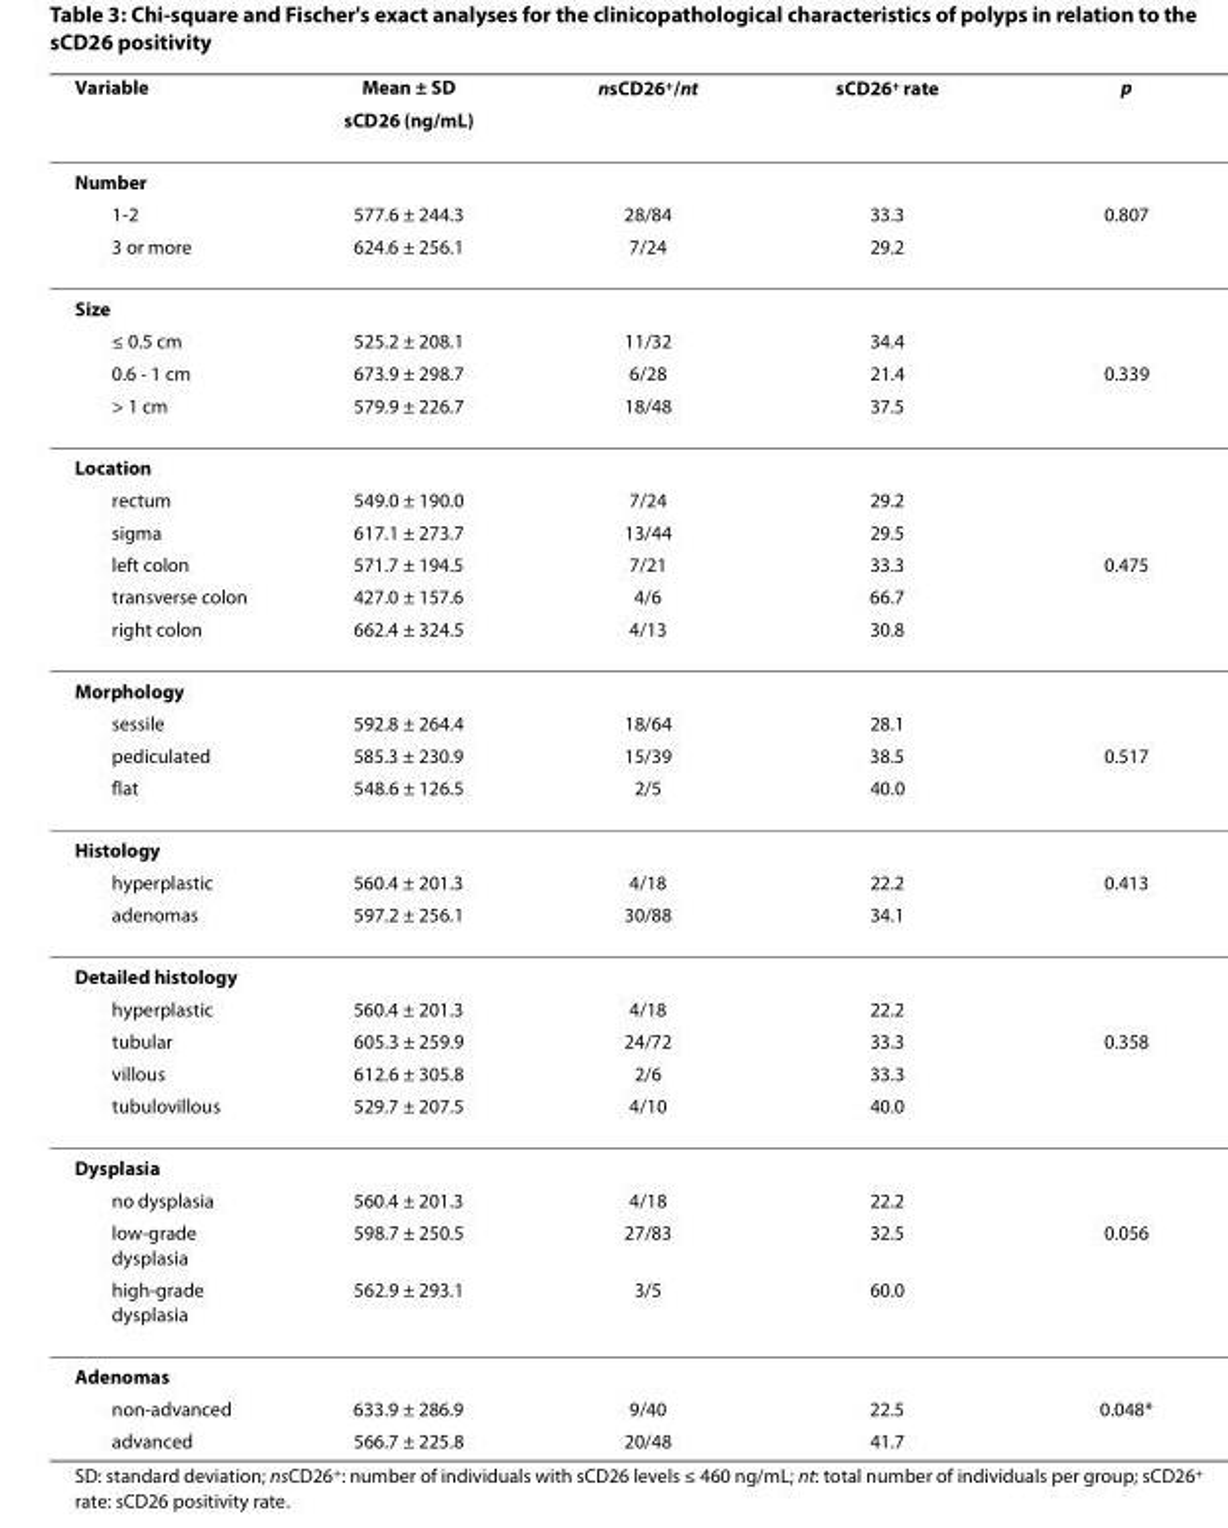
<table><thead><tr><td rowspan="2">Variable</td><td rowspan="2">Mean ± SD sCD26 (ng/mL)</td><td rowspan="2">nsCD26<sup>+</sup>/nt</td><td rowspan="2">sCD26<sup>+</sup> rate</td><td rowspan="2">p</td></tr><tr></tr></thead><tbody><tr><td colspan="5">Number</td></tr><tr><td>1-2</td><td>577.6 ± 244.3</td><td>28/84</td><td>33.3</td><td>0.807</td></tr><tr><td>3 or more</td><td>624.6 ± 256.1</td><td>7/24</td><td>29.2</td><td></td></tr><tr><td colspan="5">Size</td></tr><tr><td>≤ 0.5 cm</td><td>525.2 ± 208.1</td><td>11/32</td><td>34.4</td><td></td></tr><tr><td>0.6 - 1 cm</td><td>673.9 ± 298.7</td><td>6/28</td><td>21.4</td><td>0.339</td></tr><tr><td>&gt; 1 cm</td><td>579.9 ± 226.7</td><td>18/48</td><td>37.5</td><td></td></tr><tr><td colspan="5">Location</td></tr><tr><td>rectum</td><td>549.0 ± 190.0</td><td>7/24</td><td>29.2</td><td></td></tr><tr><td>sigma</td><td>617.1 ± 273.7</td><td>13/44</td><td>29.5</td><td></td></tr><tr><td>left colon</td><td>571.7 ± 194.5</td><td>7/21</td><td>33.3</td><td>0.475</td></tr><tr><td>transverse colon</td><td>427.0 ± 157.6</td><td>4/6</td><td>66.7</td><td></td></tr><tr><td>right colon</td><td>662.4 ± 324.5</td><td>4/13</td><td>30.8</td><td></td></tr><tr><td colspan="5">Morphology</td></tr><tr><td>sessile</td><td>592.8 ± 264.4</td><td>18/64</td><td>28.1</td><td></td></tr><tr><td>pediculated</td><td>585.3 ± 230.9</td><td>15/39</td><td>38.5</td><td>0.517</td></tr><tr><td>flat</td><td>548.6 ± 126.5</td><td>2/5</td><td>40.0</td><td></td></tr><tr><td colspan="5">Histology</td></tr><tr><td>hyperplastic</td><td>560.4 ± 201.3</td><td>4/18</td><td>22.2</td><td>0.413</td></tr><tr><td>adenomas</td><td>597.2 ± 256.1</td><td>30/88</td><td>34.1</td><td></td></tr><tr><td colspan="5">Detailed histology</td></tr><tr><td>hyperplastic</td><td>560.4 ± 201.3</td><td>4/18</td><td>22.2</td><td></td></tr><tr><td>tubular</td><td>605.3 ± 259.9</td><td>24/72</td><td>33.3</td><td>0.358</td></tr><tr><td>villous</td><td>612.6 ± 305.8</td><td>2/6</td><td>33.3</td><td></td></tr><tr><td>tubulovillous</td><td>529.7 ± 207.5</td><td>4/10</td><td>40.0</td><td></td></tr><tr><td colspan="5">Dysplasia</td></tr><tr><td>no dysplasia</td><td>560.4 ± 201.3</td><td>4/18</td><td>22.2</td><td></td></tr><tr><td>low-grade dysplasia</td><td>598.7 ± 250.5</td><td>27/83</td><td>32.5</td><td>0.056</td></tr><tr><td>high-grade dysplasia</td><td>562.9 ± 293.1</td><td>3/5</td><td>60.0</td><td></td></tr><tr><td colspan="5">Adenomas</td></tr><tr><td>non-advanced</td><td>633.9 ± 286.9</td><td>9/40</td><td>22.5</td><td>0.048*</td></tr><tr><td>advanced</td><td>566.7 ± 225.8</td><td>20/48</td><td>41.7</td><td></td></tr></tbody></table>